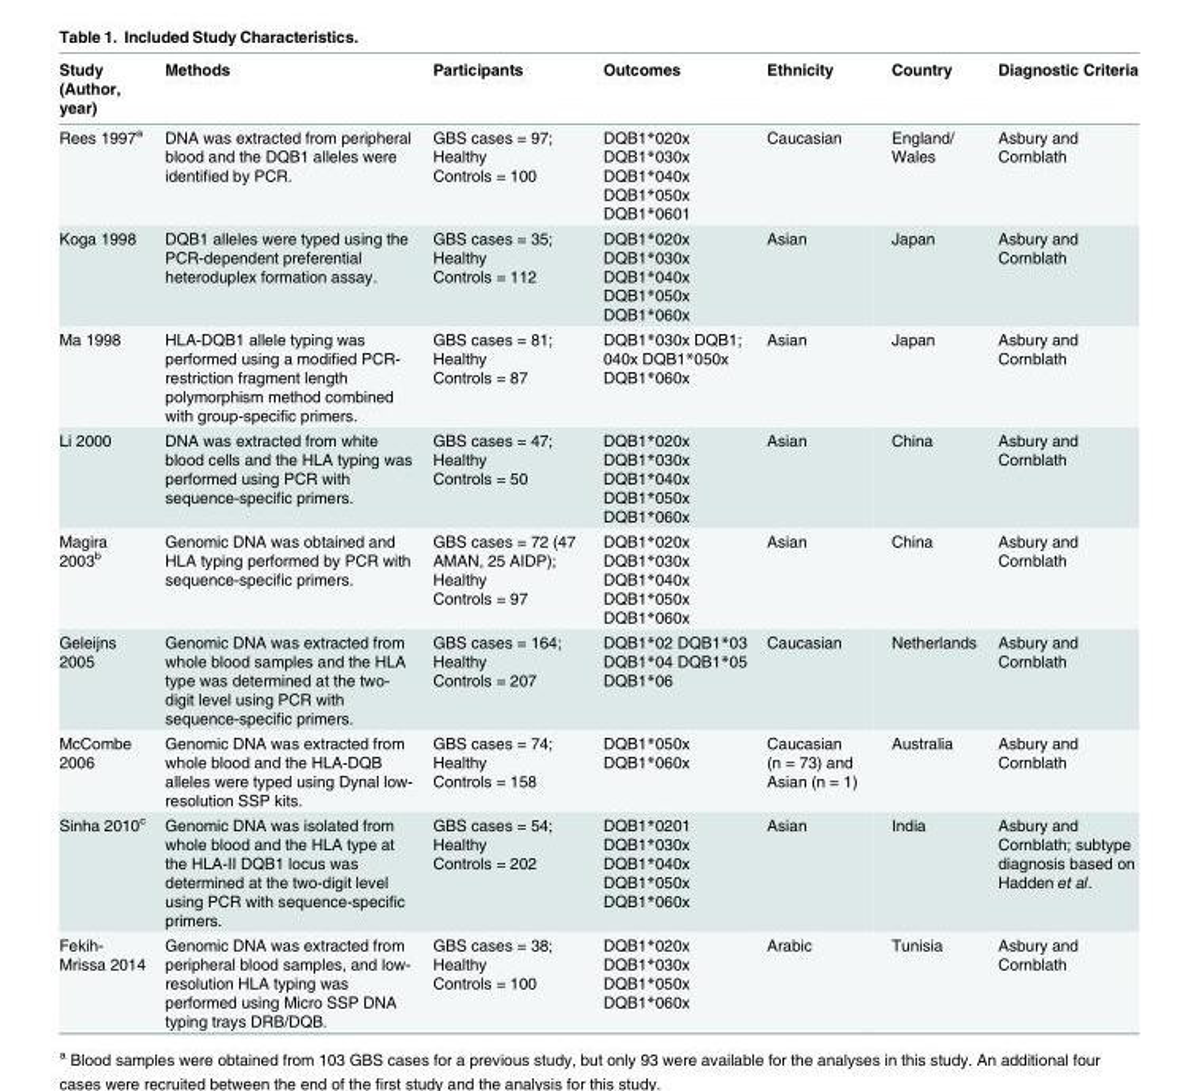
<table><thead><tr><td>Study (Author, year)</td><td>Methods</td><td>Participants</td><td>Outcomes</td><td>Ethnicity</td><td>Country</td><td>Diagnostic Criteria</td></tr></thead><tbody><tr><td>Rees 1997<sup>a</sup></td><td>DNA was extracted from peripheral blood and the DQB1 alleles were identified by PCR.</td><td>GBS cases = 97; Healthy Controls = 100</td><td>DQB1*020x DQB1*030x DQB1*040x DQB1*050x DQB1*0601</td><td>Caucasian</td><td>England/ Wales</td><td>Asbury and Cornblath</td></tr><tr><td>Koga 1998</td><td>DQB1 alleles were typed using the PCR-dependent preferential heteroduplex formation assay.</td><td>GBS cases = 35; Healthy Controls = 112</td><td>DQB1*020x DQB1*030x DQB1*040x DQB1*050x DQB1*060x</td><td>Asian</td><td>Japan</td><td>Asbury and Cornblath</td></tr><tr><td>Ma 1998</td><td>HLA-DQB1 allele typing was performed using a modified PCR- restriction fragment length polymorphism method combined with group-specific primers.</td><td>GBS cases = 81; Healthy Controls = 87</td><td>DQB1*030x DQB1; 040x DQB1*050x DQB1*060x</td><td>Asian</td><td>Japan</td><td>Asbury and Cornblath</td></tr><tr><td>Li 2000</td><td>DNA was extracted from white blood cells and the HLA typing was performed using PCR with sequence-specific primers.</td><td>GBS cases = 47; Healthy Controls = 50</td><td>DQB1*020x DQB1*030x DQB1*040x DQB1*050x DQB1*060x</td><td>Asian</td><td>China</td><td>Asbury and Cornblath</td></tr><tr><td>Magira 2003<sup>b</sup></td><td>Genomic DNA was obtained and HLA typing performed by PCR with sequence-specific primers.</td><td>GBS cases = 72 (47 AMAN, 25 AIDP); Healthy Controls = 97</td><td>DQB1*020x DQB1*030x DQB1*040x DQB1*050x DQB1*060x</td><td>Asian</td><td>China</td><td>Asbury and Cornblath</td></tr><tr><td>Geleijns 2005</td><td>Genomic DNA was extracted from whole blood samples and the HLA type was determined at the two- digit level using PCR with sequence-specific primers.</td><td>GBS cases = 164; Healthy Controls = 207</td><td>DQB1*02 DQB1*03 DQB1*04 DQB1*05 DQB1*06</td><td>Caucasian</td><td>Netherlands</td><td>Asbury and Cornblath</td></tr><tr><td>McCombe 2006</td><td>Genomic DNA was extracted from whole blood and the HLA-DQB alleles were typed using Dynal low- resolution SSP kits.</td><td>GBS cases = 74; Healthy Controls = 158</td><td>DQB1*050x DQB1*060x</td><td>Caucasian (n = 73) and Asian (n = 1)</td><td>Australia</td><td>Asbury and Cornblath</td></tr><tr><td>Sinha 2010<sup>c</sup></td><td>Genomic DNA was isolated from whole blood and the HLA type at the HLA-II DQB1 locus was determined at the two-digit level using PCR with sequence-specific primers.</td><td>GBS cases = 54; Healthy Controls = 202</td><td>DQB1*0201 DQB1*030x DQB1*040x DQB1*050x DQB1*060x</td><td>Asian</td><td>India</td><td>Asbury and Cornblath; subtype diagnosis based on Hadden et al.</td></tr><tr><td>Fekih- Mrissa 2014</td><td>Genomic DNA was extracted from peripheral blood samples, and low- resolution HLA typing was performed using Micro SSP DNA typing trays DRB/DQB.</td><td>GBS cases = 38; Healthy Controls = 100</td><td>DQB1*020x DQB1*030x DQB1*050x DQB1*060x</td><td>Arabic</td><td>Tunisia</td><td>Asbury and Cornblath</td></tr></tbody></table>